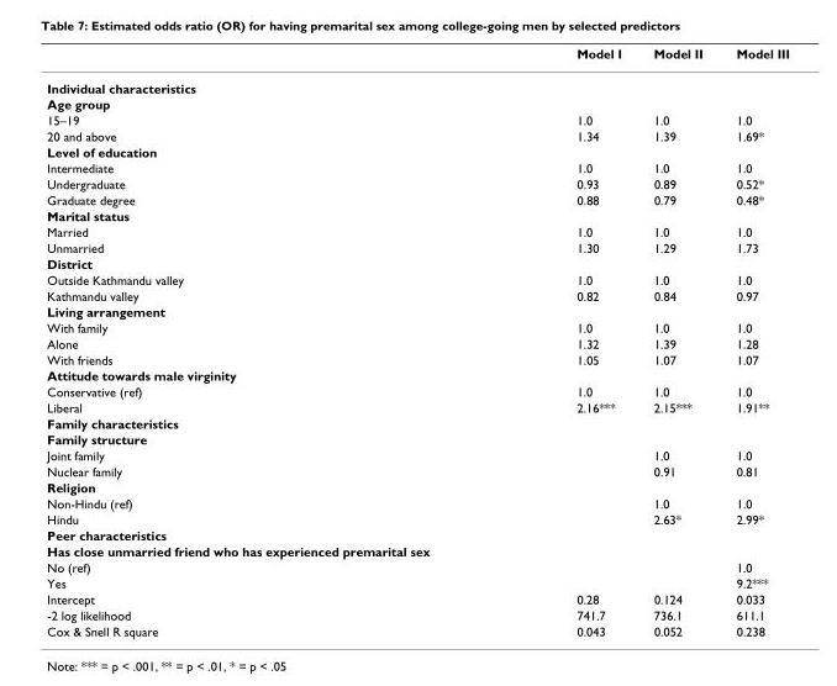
<table><thead><tr><td></td><td>Model I</td><td>Model II</td><td>Model III</td></tr></thead><tbody><tr><td colspan="4">Individual characteristics</td></tr><tr><td colspan="4">Age group</td></tr><tr><td>15–19</td><td>1.0</td><td>1.0</td><td>1.0</td></tr><tr><td>20 and above</td><td>1.34</td><td>1.39</td><td>1.69*</td></tr><tr><td colspan="4">Level of education</td></tr><tr><td>Intermediate</td><td>1.0</td><td>1.0</td><td>1.0</td></tr><tr><td>Undergraduate</td><td>0.93</td><td>0.89</td><td>0.52*</td></tr><tr><td>Graduate degree</td><td>0.88</td><td>0.79</td><td>0.48*</td></tr><tr><td colspan="4">Marital status</td></tr><tr><td>Married</td><td>1.0</td><td>1.0</td><td>1.0</td></tr><tr><td>Unmarried</td><td>1.30</td><td>1.29</td><td>1.73</td></tr><tr><td colspan="4">District</td></tr><tr><td>Outside Kathmandu valley</td><td>1.0</td><td>1.0</td><td>1.0</td></tr><tr><td>Kathmandu valley</td><td>0.82</td><td>0.84</td><td>0.97</td></tr><tr><td colspan="4">Living arrangement</td></tr><tr><td>With family</td><td>1.0</td><td>1.0</td><td>1.0</td></tr><tr><td>Alone</td><td>1.32</td><td>1.39</td><td>1.28</td></tr><tr><td>With friends</td><td>1.05</td><td>1.07</td><td>1.07</td></tr><tr><td colspan="4">Attitude towards male virginity</td></tr><tr><td>Conservative (ref)</td><td>1.0</td><td>1.0</td><td>1.0</td></tr><tr><td>Liberal</td><td>2.16***</td><td>2.15***</td><td>1.91**</td></tr><tr><td colspan="4">Family characteristics</td></tr><tr><td colspan="4">Family structure</td></tr><tr><td>Joint family</td><td></td><td>1.0</td><td>1.0</td></tr><tr><td>Nuclear family</td><td></td><td>0.91</td><td>0.81</td></tr><tr><td colspan="4">Religion</td></tr><tr><td>Non-Hindu (ref)</td><td></td><td>1.0</td><td>1.0</td></tr><tr><td>Hindu</td><td></td><td>2.63*</td><td>2.99*</td></tr><tr><td colspan="4">Peer characteristics</td></tr><tr><td colspan="4">Has close unmarried friend who has experienced premarital sex</td></tr><tr><td>No (ref)</td><td></td><td></td><td>1.0</td></tr><tr><td>Yes</td><td></td><td></td><td>9.2***</td></tr><tr><td>Intercept</td><td>0.28</td><td>0.124</td><td>0.033</td></tr><tr><td>-2 log likelihood</td><td>741.7</td><td>736.1</td><td>611.1</td></tr><tr><td>Cox &amp; Snell R square</td><td>0.043</td><td>0.052</td><td>0.238</td></tr></tbody></table>